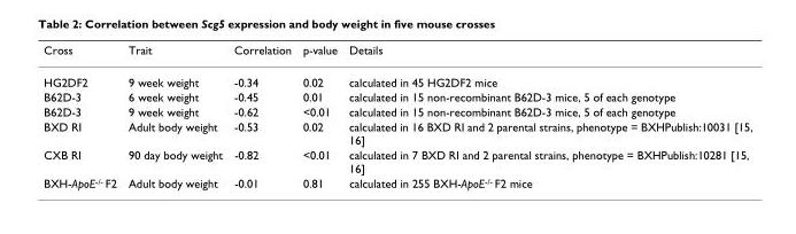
<table><thead><tr><td>Cross</td><td>Trait</td><td>Correlation</td><td>p-value</td><td>Details</td></tr></thead><tbody><tr><td>HG2DF2</td><td>9 week weight</td><td>-0.34</td><td>0.02</td><td>calculated in 45 HG2DF2 mice</td></tr><tr><td>B62D-3</td><td>6 week weight</td><td>-0.45</td><td>0.01</td><td>calculated in 15 non-recombinant B62D-3 mice, 5 of each genotype</td></tr><tr><td>B62D-3</td><td>9 week weight</td><td>-0.62</td><td>&lt;0.01</td><td>calculated in 15 non-recombinant B62D-3 mice, 5 of each genotype</td></tr><tr><td>BXD RI</td><td>Adult body weight</td><td>-0.53</td><td>0.02</td><td>calculated in 16 BXD RI and 2 parental strains, phenotype = BXHPublish:10031 [15, 16]</td></tr><tr><td>CXB RI</td><td>90 day body weight</td><td>-0.82</td><td>&lt;0.01</td><td>calculated in 7 BXD RI and 2 parental strains, phenotype = BXHPublish:10281 [15, 16]</td></tr><tr><td>BXH-ApoE<sup>-/-</sup> F2</td><td>Adult body weight</td><td>-0.01</td><td>0.81</td><td>calculated in 255 BXH-ApoE<sup>-/-</sup> F2 mice</td></tr></tbody></table>